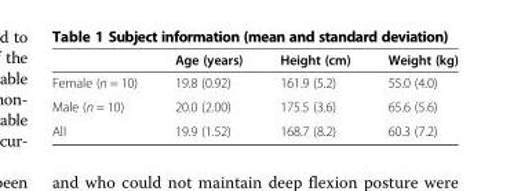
<table><thead><tr><td></td><td>Age (years)</td><td>Height (cm)</td><td>Weight (kg)</td></tr></thead><tbody><tr><td>Female (n = 10)</td><td>19.8 (0.92)</td><td>161.9 (5.2)</td><td>55.0 (4.0)</td></tr><tr><td>Male (n = 10)</td><td>20.0 (2.00)</td><td>175.5 (3.6)</td><td>65.6 (5.6)</td></tr><tr><td>All</td><td>19.9 (1.52)</td><td>168.7 (8.2)</td><td>60.3 (7.2)</td></tr></tbody></table>